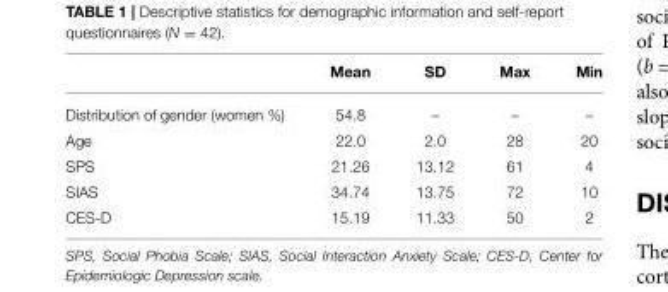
<table><thead><tr><td></td><td>Mean</td><td>SD</td><td>Max</td><td>Min</td></tr></thead><tbody><tr><td>Distribution of gender (women %)</td><td>54.8</td><td>–</td><td>–</td><td>–</td></tr><tr><td>Age</td><td>22.0</td><td>2.0</td><td>28</td><td>20</td></tr><tr><td>SPS</td><td>21.26</td><td>13.12</td><td>61</td><td>4</td></tr><tr><td>SIAS</td><td>34.74</td><td>13.75</td><td>72</td><td>10</td></tr><tr><td>CES-D</td><td>15.19</td><td>11.33</td><td>50</td><td>2</td></tr></tbody></table>